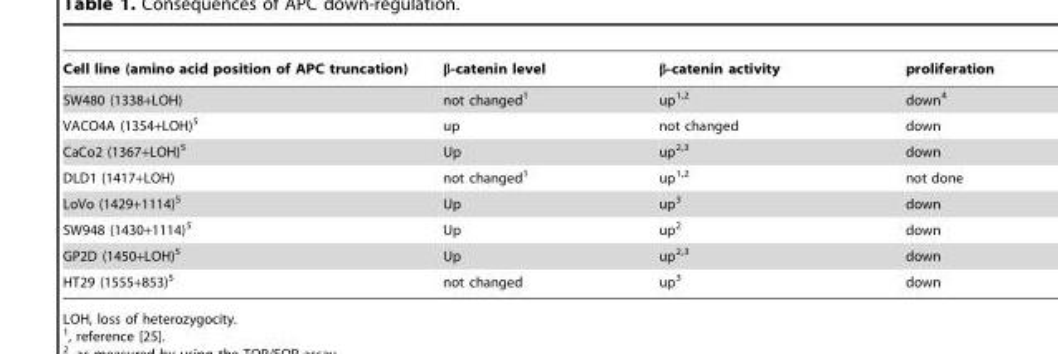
<table><thead><tr><td>Cell line (amino acid position of APC truncation)</td><td>β-catenin level</td><td>β-catenin activity</td><td>proliferation</td></tr></thead><tbody><tr><td>SW480 (1338+LOH)</td><td>not changed<sup>1</sup></td><td>up<sup>1,</sup>2</td><td>down<sup>4</sup></td></tr><tr><td>VACO4A (1354+LOH)<sup>5</sup></td><td>up</td><td>not changed</td><td>down</td></tr><tr><td>CaCo2 (1367+LOH)<sup>5</sup></td><td>Up</td><td>up<sup>2,</sup>3</td><td>down</td></tr><tr><td>DLD1 (1417+LOH)</td><td>not changed<sup>1</sup></td><td>up<sup>1,</sup>2</td><td>not done</td></tr><tr><td>LoVo (1429+1114)<sup>5</sup></td><td>Up</td><td>up<sup>3</sup></td><td>down</td></tr><tr><td>SW948 (1430+1114)<sup>5</sup></td><td>Up</td><td>up<sup>2</sup></td><td>down</td></tr><tr><td>GP2D (1450+LOH)<sup>5</sup></td><td>Up</td><td>up<sup>2,</sup>3</td><td>down</td></tr><tr><td>HT29 (1555+853)<sup>5</sup></td><td>not changed</td><td>up<sup>3</sup></td><td>down</td></tr></tbody></table>